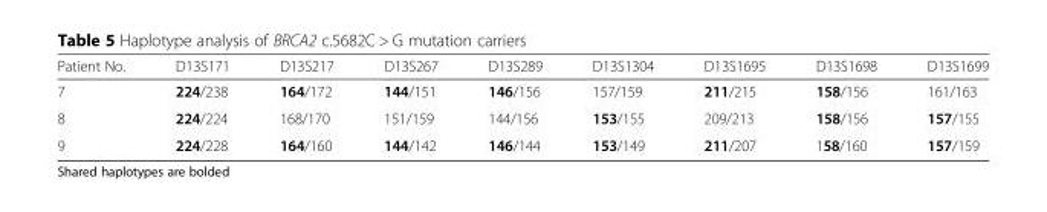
<table><thead><tr><td>Patient No.</td><td>D13S171</td><td>D13S217</td><td>D13S267</td><td>D13S289</td><td>D13S1304</td><td>D13S1695</td><td>D13S1698</td><td>D13S1699</td></tr></thead><tbody><tr><td>7</td><td>224/238</td><td>164/172</td><td>144/151</td><td>146/156</td><td>157/159</td><td>211/215</td><td>158/156</td><td>161/163</td></tr><tr><td>8</td><td>224/224</td><td>168/170</td><td>151/159</td><td>144/156</td><td>153/155</td><td>209/213</td><td>158/156</td><td>157/155</td></tr><tr><td>9</td><td>224/228</td><td>164/160</td><td>144/142</td><td>146/144</td><td>153/149</td><td>211/207</td><td>158/160</td><td>157/159</td></tr></tbody></table>